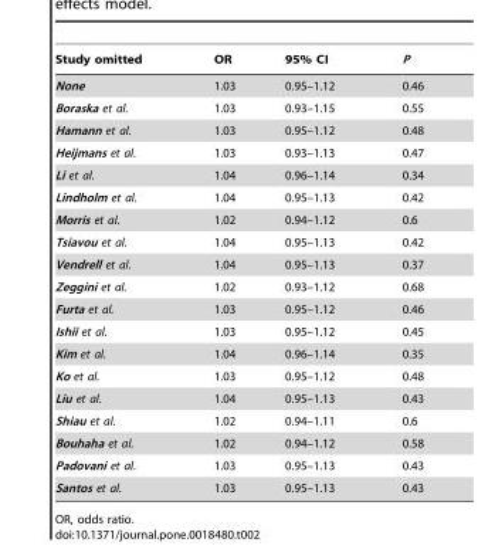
<table><thead><tr><td>Study omitted</td><td>OR</td><td>95% CI</td><td>P</td></tr></thead><tbody><tr><td>None</td><td>1.03</td><td>0.95–1.12</td><td>0.46</td></tr><tr><td>Boraska et al.</td><td>1.03</td><td>0.93–1.15</td><td>0.55</td></tr><tr><td>Hamann et al.</td><td>1.03</td><td>0.95–1.12</td><td>0.48</td></tr><tr><td>Heijmans et al.</td><td>1.03</td><td>0.93–1.13</td><td>0.47</td></tr><tr><td>Li et al.</td><td>1.04</td><td>0.96–1.14</td><td>0.34</td></tr><tr><td>Lindholm et al.</td><td>1.04</td><td>0.95–1.13</td><td>0.42</td></tr><tr><td>Morris et al.</td><td>1.02</td><td>0.94–1.12</td><td>0.6</td></tr><tr><td>Tsiavou et al.</td><td>1.04</td><td>0.95–1.13</td><td>0.42</td></tr><tr><td>Vendrell et al.</td><td>1.04</td><td>0.95–1.13</td><td>0.37</td></tr><tr><td>Zeggini et al.</td><td>1.02</td><td>0.93–1.12</td><td>0.68</td></tr><tr><td>Furta et al.</td><td>1.03</td><td>0.95–1.12</td><td>0.46</td></tr><tr><td>Ishii et al.</td><td>1.03</td><td>0.95–1.12</td><td>0.45</td></tr><tr><td>Kim et al.</td><td>1.04</td><td>0.96–1.14</td><td>0.35</td></tr><tr><td>Ko et al.</td><td>1.03</td><td>0.95–1.12</td><td>0.48</td></tr><tr><td>Liu et al.</td><td>1.04</td><td>0.95–1.13</td><td>0.43</td></tr><tr><td>Shiau et al.</td><td>1.02</td><td>0.94–1.11</td><td>0.6</td></tr><tr><td>Bouhaha et al.</td><td>1.02</td><td>0.94–1.12</td><td>0.58</td></tr><tr><td>Padovani et al.</td><td>1.03</td><td>0.95–1.13</td><td>0.43</td></tr><tr><td>Santos et al.</td><td>1.03</td><td>0.95–1.13</td><td>0.43</td></tr></tbody></table>